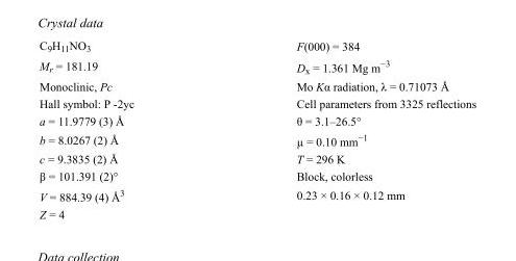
<table><tbody><tr><td>C<sub>9</sub>H<sub>11</sub>NO<sub>3</sub></td><td>F(000) = 384</td></tr><tr><td>M<sub>r</sub> = 181.19</td><td>D<sub>x</sub> = 1.361 Mg m<sup>−3</sup></td></tr><tr><td>Monoclinic, Pc</td><td>Mo Kα radiation, λ = 0.71073 Å</td></tr><tr><td>Hall symbol: P -2yc</td><td>Cell parameters from 3325 reflections</td></tr><tr><td>a = 11.9779 (3) Å</td><td>θ = 3.1–26.5°</td></tr><tr><td>b = 8.0267 (2) Å</td><td>µ = 0.10 mm<sup>−1</sup></td></tr><tr><td>c = 9.3835 (2) Å</td><td>T = 296 K</td></tr><tr><td>β = 101.391 (2)°</td><td>Block, colorless</td></tr><tr><td>V = 884.39 (4) Å<sup>3</sup></td><td>0.23 × 0.16 × 0.12 mm</td></tr><tr><td>Z = 4</td><td></td></tr></tbody></table>